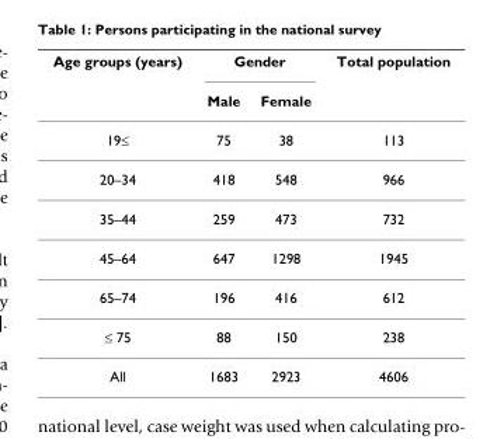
<table><thead><tr><td rowspan="2">Age groups (years)</td><td colspan="2">Gender</td><td rowspan="2">Total population</td></tr><tr><td>Male</td><td>Female</td></tr></thead><tbody><tr><td>19≤</td><td>75</td><td>38</td><td>113</td></tr><tr><td>20–34</td><td>418</td><td>548</td><td>966</td></tr><tr><td>35–44</td><td>259</td><td>473</td><td>732</td></tr><tr><td>45–64</td><td>647</td><td>1298</td><td>1945</td></tr><tr><td>65–74</td><td>196</td><td>416</td><td>612</td></tr><tr><td>≤ 75</td><td>88</td><td>150</td><td>238</td></tr><tr><td>All</td><td>1683</td><td>2923</td><td>4606</td></tr></tbody></table>